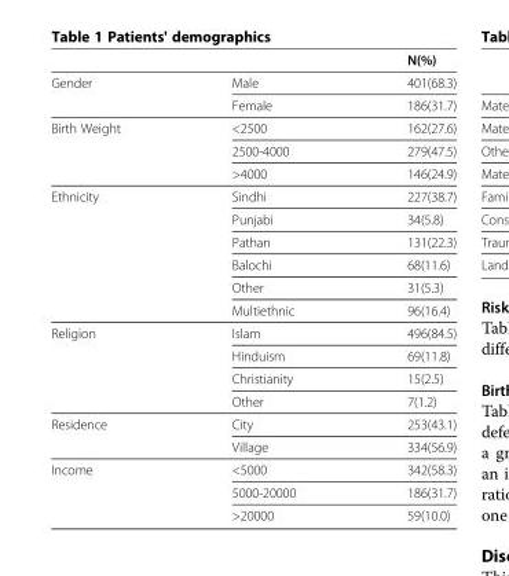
<table><thead><tr><td></td><td></td><td>N(%)</td></tr></thead><tbody><tr><td rowspan="2">Gender</td><td>Male</td><td>401(68.3)</td></tr><tr><td>Female</td><td>186(31.7)</td></tr><tr><td rowspan="3">Birth Weight</td><td>&lt;2500</td><td>162(27.6)</td></tr><tr><td>2500-4000</td><td>279(47.5)</td></tr><tr><td>&gt;4000</td><td>146(24.9)</td></tr><tr><td rowspan="6">Ethnicity</td><td>Sindhi</td><td>227(38.7)</td></tr><tr><td>Punjabi</td><td>34(5.8)</td></tr><tr><td>Pathan</td><td>131(22.3)</td></tr><tr><td>Balochi</td><td>68(11.6)</td></tr><tr><td>Other</td><td>31(5.3)</td></tr><tr><td>Multiethnic</td><td>96(16.4)</td></tr><tr><td rowspan="4">Religion</td><td>Islam</td><td>496(84.5)</td></tr><tr><td>Hinduism</td><td>69(11.8)</td></tr><tr><td>Christianity</td><td>15(2.5)</td></tr><tr><td>Other</td><td>7(1.2)</td></tr><tr><td rowspan="2">Residence</td><td>City</td><td>253(43.1)</td></tr><tr><td>Village</td><td>334(56.9)</td></tr><tr><td rowspan="3">Income</td><td>&lt;5000</td><td>342(58.3)</td></tr><tr><td>5000-20000</td><td>186(31.7)</td></tr><tr><td>&gt;20000</td><td>59(10.0)</td></tr></tbody></table>